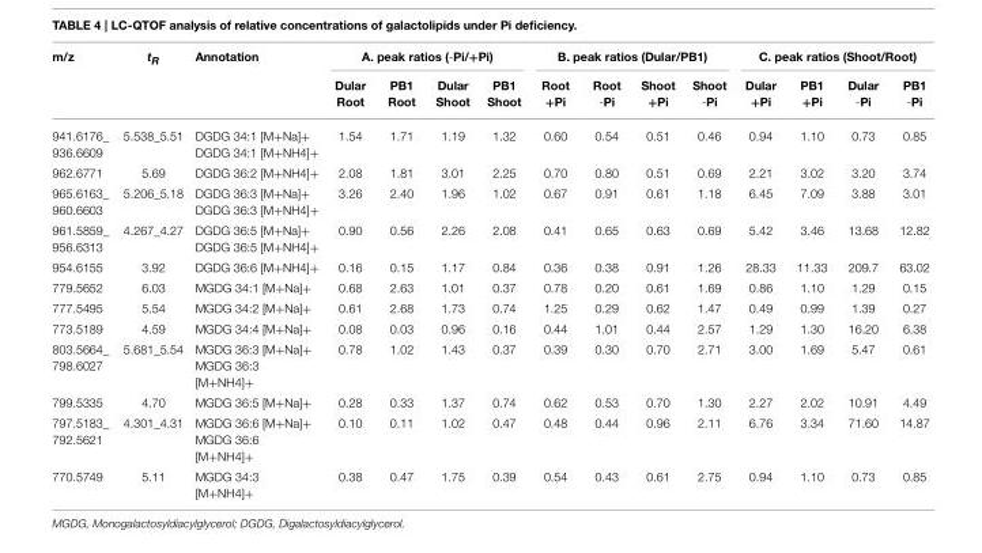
<table><thead><tr><td rowspan="2">m/z</td><td rowspan="2">t<sub>R</sub></td><td rowspan="2">Annotation</td><td colspan="4">A. peak ratios (-Pi/+Pi)</td><td colspan="4">B. peak ratios (Dular/PB1)</td><td colspan="4">C. peak ratios (Shoot/Root)</td></tr><tr><td>Dular Root</td><td>PB1 Root</td><td>Dular Shoot</td><td>PB1 Shoot</td><td>Root +Pi</td><td>Root -Pi</td><td>Shoot +Pi</td><td>Shoot -Pi</td><td>Dular +Pi</td><td>PB1 +Pi</td><td>Dular -Pi</td><td>PB1 -Pi</td></tr></thead><tbody><tr><td>941.6176_ 936.6609</td><td>5.538_5.51</td><td>DGDG 34:1 [M+Na]+ DGDG 34:1 [M+NH4]+</td><td>1.54</td><td>1.71</td><td>1.19</td><td>1.32</td><td>0.60</td><td>0.54</td><td>0.51</td><td>0.46</td><td>0.94</td><td>1.10</td><td>0.73</td><td>0.85</td></tr><tr><td>962.6771</td><td>5.69</td><td>DGDG 36:2 [M+NH4]+</td><td>2.08</td><td>1.81</td><td>3.01</td><td>2.25</td><td>0.70</td><td>0.80</td><td>0.51</td><td>0.69</td><td>2.21</td><td>3.02</td><td>3.20</td><td>3.74</td></tr><tr><td>965.6163_ 960.6603</td><td>5.206_5.18</td><td>DGDG 36:3 [M+Na]+ DGDG 36:3 [M+NH4]+</td><td>3.26</td><td>2.40</td><td>1.96</td><td>1.02</td><td>0.67</td><td>0.91</td><td>0.61</td><td>1.18</td><td>6.45</td><td>7.09</td><td>3.88</td><td>3.01</td></tr><tr><td>961.5859_ 956.6313</td><td>4.267_4.27</td><td>DGDG 36:5 [M+Na]+ DGDG 36:5 [M+NH4]+</td><td>0.90</td><td>0.56</td><td>2.26</td><td>2.08</td><td>0.41</td><td>0.65</td><td>0.63</td><td>0.69</td><td>5.42</td><td>3.46</td><td>13.68</td><td>12.82</td></tr><tr><td>954.6155</td><td>3.92</td><td>DGDG 36:6 [M+NH4]+</td><td>0.16</td><td>0.15</td><td>1.17</td><td>0.84</td><td>0.36</td><td>0.38</td><td>0.91</td><td>1.26</td><td>28.33</td><td>11.33</td><td>209.7</td><td>63.02</td></tr><tr><td>779.5652</td><td>6.03</td><td>MGDG 34:1 [M+Na]+</td><td>0.68</td><td>2.63</td><td>1.01</td><td>0.37</td><td>0.78</td><td>0.20</td><td>0.61</td><td>1.69</td><td>0.86</td><td>1.10</td><td>1.29</td><td>0.15</td></tr><tr><td>777.5495</td><td>5.54</td><td>MGDG 34:2 [M+Na]+</td><td>0.61</td><td>2.68</td><td>1.73</td><td>0.74</td><td>1.25</td><td>0.29</td><td>0.62</td><td>1.47</td><td>0.49</td><td>0.99</td><td>1.39</td><td>0.27</td></tr><tr><td>773.5189</td><td>4.59</td><td>MGDG 34:4 [M+Na]+</td><td>0.08</td><td>0.03</td><td>0.96</td><td>0.16</td><td>0.44</td><td>1.01</td><td>0.44</td><td>2.57</td><td>1.29</td><td>1.30</td><td>16.20</td><td>6.38</td></tr><tr><td>803.5664_ 798.6027</td><td>5.681_5.54</td><td>MGDG 36:3 [M+Na]+ MGDG 36:3 [M+NH4]+</td><td>0.78</td><td>1.02</td><td>1.43</td><td>0.37</td><td>0.39</td><td>0.30</td><td>0.70</td><td>2.71</td><td>3.00</td><td>1.69</td><td>5.47</td><td>0.61</td></tr><tr><td>799.5335</td><td>4.70</td><td>MGDG 36:5 [M+Na]+</td><td>0.28</td><td>0.33</td><td>1.37</td><td>0.74</td><td>0.62</td><td>0.53</td><td>0.70</td><td>1.30</td><td>2.27</td><td>2.02</td><td>10.91</td><td>4.49</td></tr><tr><td>797.5183_ 792.5621</td><td>4.301_4.31</td><td>MGDG 36:6 [M+Na]+ MGDG 36:6 [M+NH4]+</td><td>0.10</td><td>0.11</td><td>1.02</td><td>0.47</td><td>0.48</td><td>0.44</td><td>0.96</td><td>2.11</td><td>6.76</td><td>3.34</td><td>71.60</td><td>14.87</td></tr><tr><td>770.5749</td><td>5.11</td><td>MGDG 34:3 [M+NH4]+</td><td>0.38</td><td>0.47</td><td>1.75</td><td>0.39</td><td>0.54</td><td>0.43</td><td>0.61</td><td>2.75</td><td>0.94</td><td>1.10</td><td>0.73</td><td>0.85</td></tr></tbody></table>